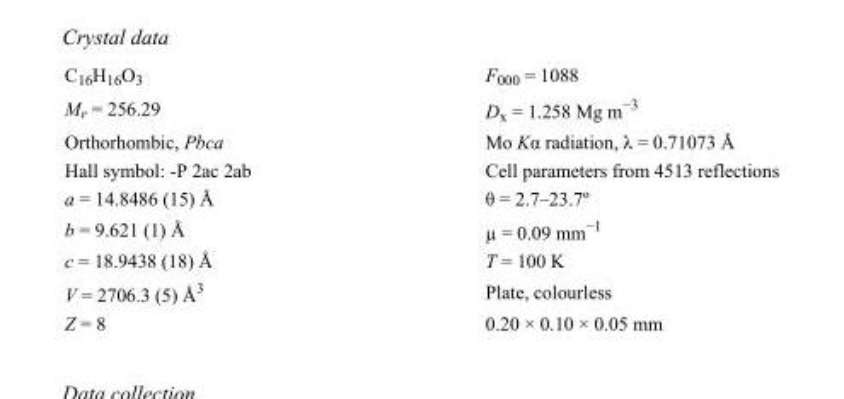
<table><tbody><tr><td>C<sub>16</sub>H<sub>16</sub>O<sub>3</sub></td><td>F000 = 1088</td></tr><tr><td>M<sub>r</sub> = 256.29</td><td>D<sub>x</sub> = 1.258 Mg m<sup>−3</sup></td></tr><tr><td>Orthorhombic, Pbca</td><td>Mo Kα radiation, λ = 0.71073 Å</td></tr><tr><td>Hall symbol: -P 2ac 2ab</td><td>Cell parameters from 4513 reflections</td></tr><tr><td>a = 14.8486 (15) Å</td><td>θ = 2.7–23.7º</td></tr><tr><td>b = 9.621 (1) Å</td><td>µ = 0.09 mm<sup>−1</sup></td></tr><tr><td>c = 18.9438 (18) Å</td><td>T = 100 K</td></tr><tr><td>V = 2706.3 (5) Å<sup>3</sup></td><td>Plate, colourless</td></tr><tr><td>Z = 8</td><td>0.20 × 0.10 × 0.05 mm</td></tr></tbody></table>